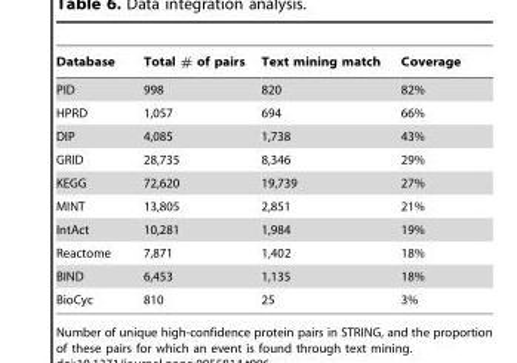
<table><thead><tr><td>Database</td><td>Total # of pairs</td><td>Text mining match</td><td>Coverage</td></tr></thead><tbody><tr><td>PID</td><td>998</td><td>820</td><td>82%</td></tr><tr><td>HPRD</td><td>1,057</td><td>694</td><td>66%</td></tr><tr><td>DIP</td><td>4,085</td><td>1,738</td><td>43%</td></tr><tr><td>GRID</td><td>28,735</td><td>8,346</td><td>29%</td></tr><tr><td>KEGG</td><td>72,620</td><td>19,739</td><td>27%</td></tr><tr><td>MINT</td><td>13,805</td><td>2,851</td><td>21%</td></tr><tr><td>IntAct</td><td>10,281</td><td>1,984</td><td>19%</td></tr><tr><td>Reactome</td><td>7,871</td><td>1,402</td><td>18%</td></tr><tr><td>BIND</td><td>6,453</td><td>1,135</td><td>18%</td></tr><tr><td>BioCyc</td><td>810</td><td>25</td><td>3%</td></tr></tbody></table>